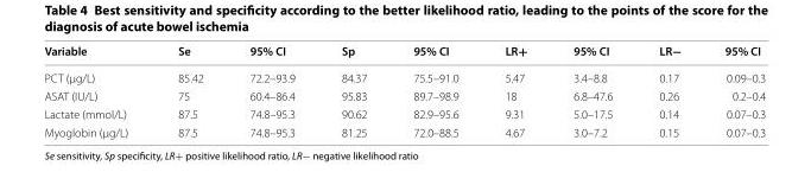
<table><thead><tr><td>Variable</td><td>Se</td><td>95% CI</td><td>Sp</td><td>95% CI</td><td>LR+</td><td>95% CI</td><td>LR−</td><td>95% CI</td></tr></thead><tbody><tr><td>PCT (μg/L)</td><td>85.42</td><td>72.2–93.9</td><td>84.37</td><td>75.5–91.0</td><td>5.47</td><td>3.4–8.8</td><td>0.17</td><td>0.09–0.3</td></tr><tr><td>ASAT (IU/L)</td><td>75</td><td>60.4–86.4</td><td>95.83</td><td>89.7–98.9</td><td>18</td><td>6.8–47.6</td><td>0.26</td><td>0.2–0.4</td></tr><tr><td>Lactate (mmol/L)</td><td>87.5</td><td>74.8–95.3</td><td>90.62</td><td>82.9–95.6</td><td>9.31</td><td>5.0–17.5</td><td>0.14</td><td>0.07–0.3</td></tr><tr><td>Myoglobin (μg/L)</td><td>87.5</td><td>74.8–95.3</td><td>81.25</td><td>72.0–88.5</td><td>4.67</td><td>3.0–7.2</td><td>0.15</td><td>0.07–0.3</td></tr></tbody></table>